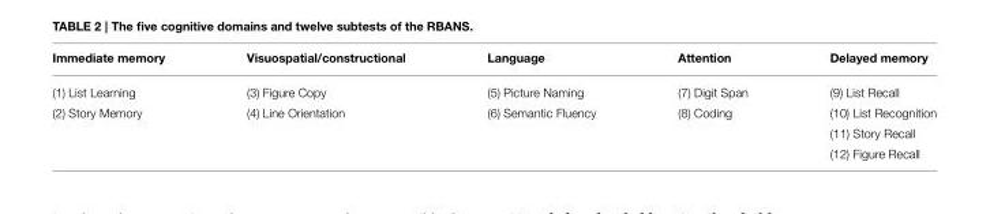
<table><thead><tr><td>Immediate memory</td><td>Visuospatial/constructional</td><td>Language</td><td>Attention</td><td>Delayed memory</td></tr></thead><tbody><tr><td>(1) List Learning</td><td>(3) Figure Copy</td><td>(5) Picture Naming</td><td>(7) Digit Span</td><td>(9) List Recall</td></tr><tr><td rowspan="3">(2) Story Memory</td><td>(4) Line Orientation</td><td>(6) Semantic Fluency</td><td>(8) Coding</td><td>(10) List Recognition</td></tr><tr><td></td><td></td><td></td><td>(11) Story Recall</td></tr><tr><td></td><td></td><td></td><td>(12) Figure Recall</td></tr></tbody></table>